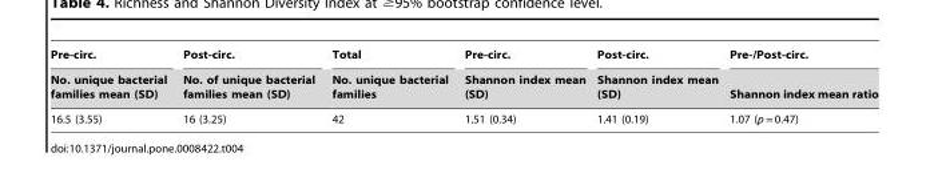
<table><thead><tr><td rowspan="2">Pre-circ. No. unique bacterial families mean (SD)</td><td rowspan="2">Post-circ. No. of unique bacterial families mean (SD)</td><td rowspan="2">Total No. unique bacterial families</td><td rowspan="2">Pre-circ. Shannon index mean (SD)</td><td rowspan="2">Post-circ. Shannon index mean (SD)</td><td rowspan="2">Pre-/Post-circ. Shannon index mean ratio</td></tr><tr></tr></thead><tbody><tr><td>16.5 (3.55)</td><td>16 (3.25)</td><td>42</td><td>1.51 (0.34)</td><td>1.41 (0.19)</td><td>1.07 (p = 0.47)</td></tr></tbody></table>